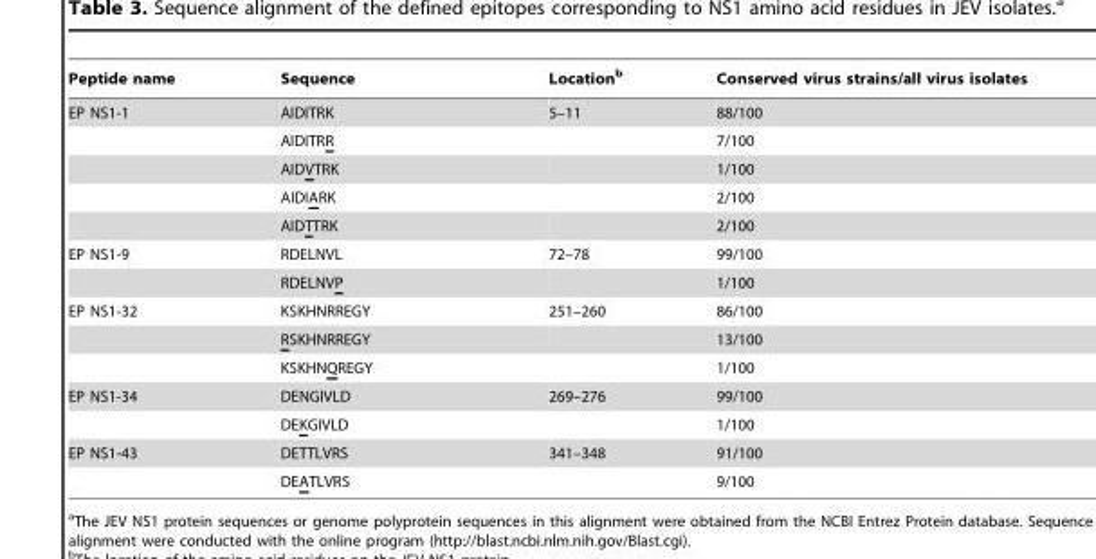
<table><thead><tr><td>Peptide name</td><td>Sequence</td><td>Location<sup>b</sup></td><td>Conserved virus strains/all virus isolates</td></tr></thead><tbody><tr><td rowspan="5">EP NS1-1</td><td>AIDITRK</td><td>5–11</td><td>88/100</td></tr><tr><td>AIDITRR</td><td></td><td>7/100</td></tr><tr><td>AIDVTRK</td><td></td><td>1/100</td></tr><tr><td>AIDIARK</td><td></td><td>2/100</td></tr><tr><td>AIDTTRK</td><td></td><td>2/100</td></tr><tr><td rowspan="2">EP NS1-9</td><td>RDELNVL</td><td>72–78</td><td>99/100</td></tr><tr><td>RDELNVP</td><td></td><td>1/100</td></tr><tr><td rowspan="3">EP NS1-32</td><td>KSKHNRREGY</td><td>251–260</td><td>86/100</td></tr><tr><td>RSKHNRREGY</td><td></td><td>13/100</td></tr><tr><td>KSKHNQREGY</td><td></td><td>1/100</td></tr><tr><td rowspan="2">EP NS1-34</td><td>DENGIVLD</td><td>269–276</td><td>99/100</td></tr><tr><td>DEKGIVLD</td><td></td><td>1/100</td></tr><tr><td rowspan="2">EP NS1-43</td><td>DETTLVRS</td><td>341–348</td><td>91/100</td></tr><tr><td>DEATLVRS</td><td></td><td>9/100</td></tr></tbody></table>